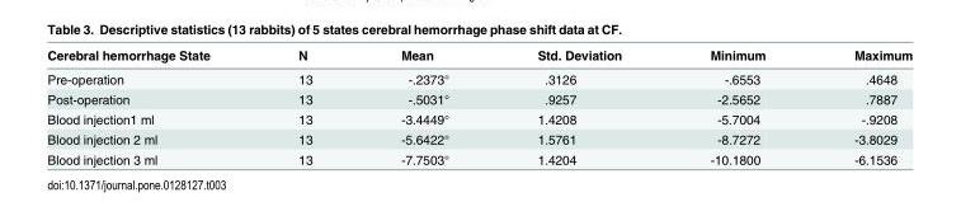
<table><thead><tr><td>Cerebral hemorrhage State</td><td>N</td><td>Mean</td><td>Std. Deviation</td><td>Minimum</td><td>Maximum</td></tr></thead><tbody><tr><td>Pre-operation</td><td>13</td><td>-.2373°</td><td>.3126</td><td>-.6553</td><td>.4648</td></tr><tr><td>Post-operation</td><td>13</td><td>-.5031°</td><td>.9257</td><td>-2.5652</td><td>.7887</td></tr><tr><td>Blood injection1 ml</td><td>13</td><td>-3.4449°</td><td>1.4208</td><td>-5.7004</td><td>-.9208</td></tr><tr><td>Blood injection 2 ml</td><td>13</td><td>-5.6422°</td><td>1.5761</td><td>-8.7272</td><td>-3.8029</td></tr><tr><td>Blood injection 3 ml</td><td>13</td><td>-7.7503°</td><td>1.4204</td><td>-10.1800</td><td>-6.1536</td></tr></tbody></table>